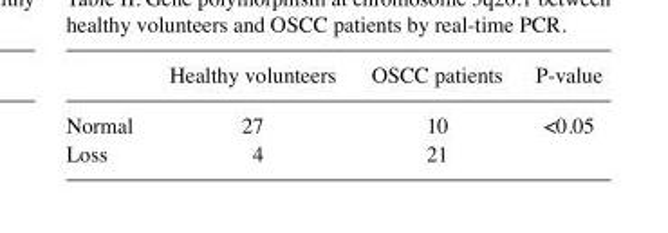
<table><thead><tr><td></td><td>Healthy volunteers</td><td>OSCC patients</td><td>P-value</td></tr></thead><tbody><tr><td>Normal</td><td>27</td><td>10</td><td>&lt;0.05</td></tr><tr><td>Loss</td><td>4</td><td>21</td><td></td></tr></tbody></table>